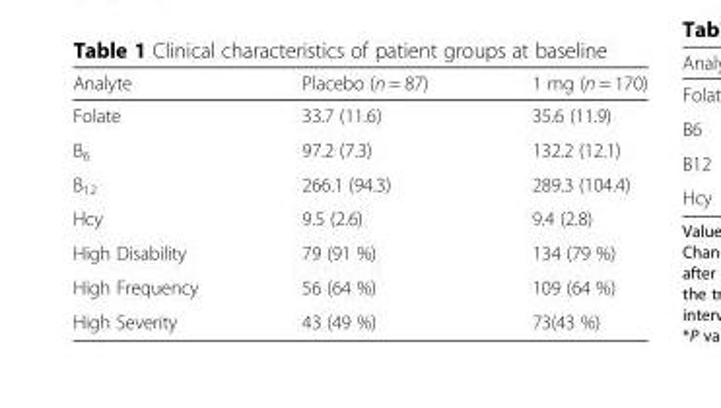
<table><thead><tr><td>Analyte</td><td>Placebo (n = 87)</td><td>1 mg (n = 170)</td></tr></thead><tbody><tr><td>Folate</td><td>33.7 (11.6)</td><td>35.6 (11.9)</td></tr><tr><td>B<sub>6</sub></td><td>97.2 (7.3)</td><td>132.2 (12.1)</td></tr><tr><td>B<sub>12</sub></td><td>266.1 (94.3)</td><td>289.3 (104.4)</td></tr><tr><td>Hcy</td><td>9.5 (2.6)</td><td>9.4 (2.8)</td></tr><tr><td>High Disability</td><td>79 (91 %)</td><td>134 (79 %)</td></tr><tr><td>High Frequency</td><td>56 (64 %)</td><td>109 (64 %)</td></tr><tr><td>High Severity</td><td>43 (49 %)</td><td>73(43 %)</td></tr></tbody></table>